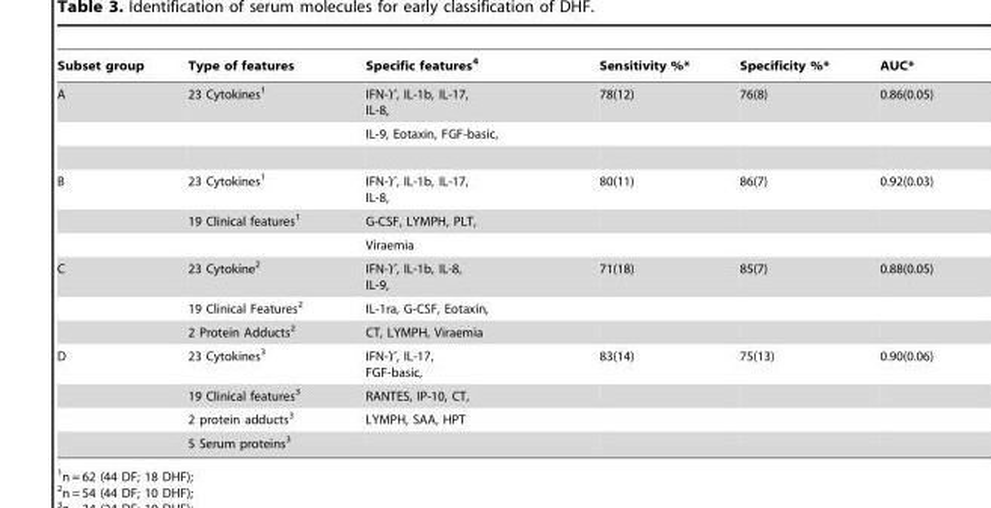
<table><thead><tr><td>Subset group</td><td>Type of features</td><td>Specific features<sup>4</sup></td><td>Sensitivity %*</td><td>Specificity %*</td><td>AUC*</td></tr></thead><tbody><tr><td rowspan="2">A</td><td>23 Cytokines<sup>1</sup></td><td>IFN-ϒ, IL-1b, IL-17, IL-8,</td><td>78(12)</td><td>76(8)</td><td>0.86(0.05)</td></tr><tr><td></td><td>IL-9, Eotaxin, FGF-basic,</td><td></td><td></td><td></td></tr><tr><td rowspan="3">B</td><td>23 Cytokines<sup>1</sup></td><td>IFN-ϒ, IL-1b, IL-17, IL-8,</td><td>80(11)</td><td>86(7)</td><td>0.92(0.03)</td></tr><tr><td>19 Clinical features<sup>1</sup></td><td>G-CSF, LYMPH, PLT,</td><td></td><td></td><td></td></tr><tr><td></td><td>Viraemia</td><td></td><td></td><td></td></tr><tr><td rowspan="3">C</td><td>23 Cytokine<sup>2</sup></td><td>IFN-ϒ, IL-1b, IL-8, IL-9,</td><td>71(18)</td><td>85(7)</td><td>0.88(0.05)</td></tr><tr><td>19 Clinical Features<sup>2</sup></td><td>IL-1ra, G-CSF, Eotaxin,</td><td></td><td></td><td></td></tr><tr><td>2 Protein Adducts<sup>2</sup></td><td>CT, LYMPH, Viraemia</td><td></td><td></td><td></td></tr><tr><td rowspan="4">D</td><td>23 Cytokines<sup>3</sup></td><td>IFN-ϒ, IL-17, FGF-basic,</td><td>83(14)</td><td>75(13)</td><td>0.90(0.06)</td></tr><tr><td>19 Clinical features<sup>3</sup></td><td>RANTES, IP-10, CT,</td><td></td><td></td><td></td></tr><tr><td>2 protein adducts<sup>3</sup></td><td>LYMPH, SAA, HPT</td><td></td><td></td><td></td></tr><tr><td>5 Serum proteins<sup>3</sup></td><td></td><td></td><td></td><td></td></tr></tbody></table>